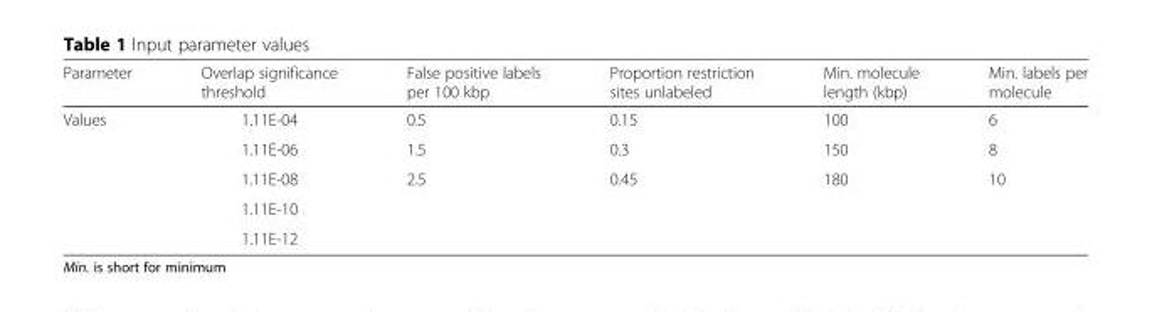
<table><thead><tr><td>Parameter</td><td>Overlap significance threshold</td><td>False positive labels per 100 kbp</td><td>Proportion restriction sites unlabeled</td><td>Min. molecule length (kbp)</td><td>Min. labels per molecule</td></tr></thead><tbody><tr><td rowspan="5">Values</td><td>1.11E-04</td><td>0.5</td><td>0.15</td><td>100</td><td>6</td></tr><tr><td>1.11E-06</td><td>1.5</td><td>0.3</td><td>150</td><td>8</td></tr><tr><td>1.11E-08</td><td>2.5</td><td>0.45</td><td>180</td><td>10</td></tr><tr><td>1.11E-10</td><td></td><td></td><td></td><td></td></tr><tr><td>1.11E-12</td><td></td><td></td><td></td><td></td></tr></tbody></table>